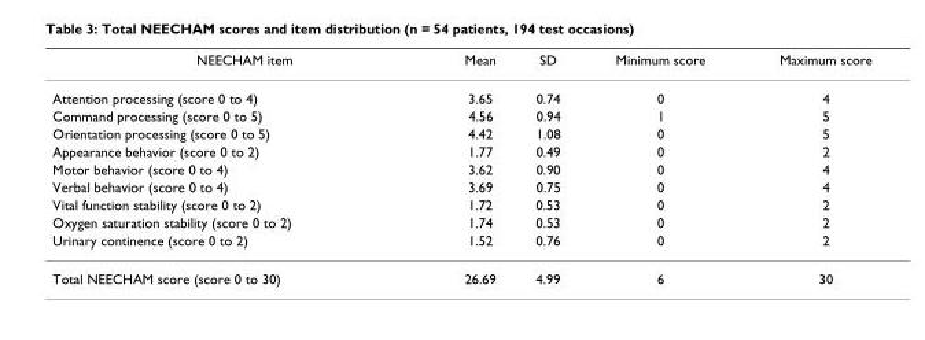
<table><thead><tr><td>NEECHAM item</td><td>Mean</td><td>SD</td><td>Minimum score</td><td>Maximum score</td></tr></thead><tbody><tr><td>Attention processing (score 0 to 4)</td><td>3.65</td><td>0.74</td><td>0</td><td>4</td></tr><tr><td>Command processing (score 0 to 5)</td><td>4.56</td><td>0.94</td><td>1</td><td>5</td></tr><tr><td>Orientation processing (score 0 to 5)</td><td>4.42</td><td>1.08</td><td>0</td><td>5</td></tr><tr><td>Appearance behavior (score 0 to 2)</td><td>1.77</td><td>0.49</td><td>0</td><td>2</td></tr><tr><td>Motor behavior (score 0 to 4)</td><td>3.62</td><td>0.90</td><td>0</td><td>4</td></tr><tr><td>Verbal behavior (score 0 to 4)</td><td>3.69</td><td>0.75</td><td>0</td><td>4</td></tr><tr><td>Vital function stability (score 0 to 2)</td><td>1.72</td><td>0.53</td><td>0</td><td>2</td></tr><tr><td>Oxygen saturation stability (score 0 to 2)</td><td>1.74</td><td>0.53</td><td>0</td><td>2</td></tr><tr><td>Urinary continence (score 0 to 2)</td><td>1.52</td><td>0.76</td><td>0</td><td>2</td></tr><tr><td>Total NEECHAM score (score 0 to 30)</td><td>26.69</td><td>4.99</td><td>6</td><td>30</td></tr></tbody></table>